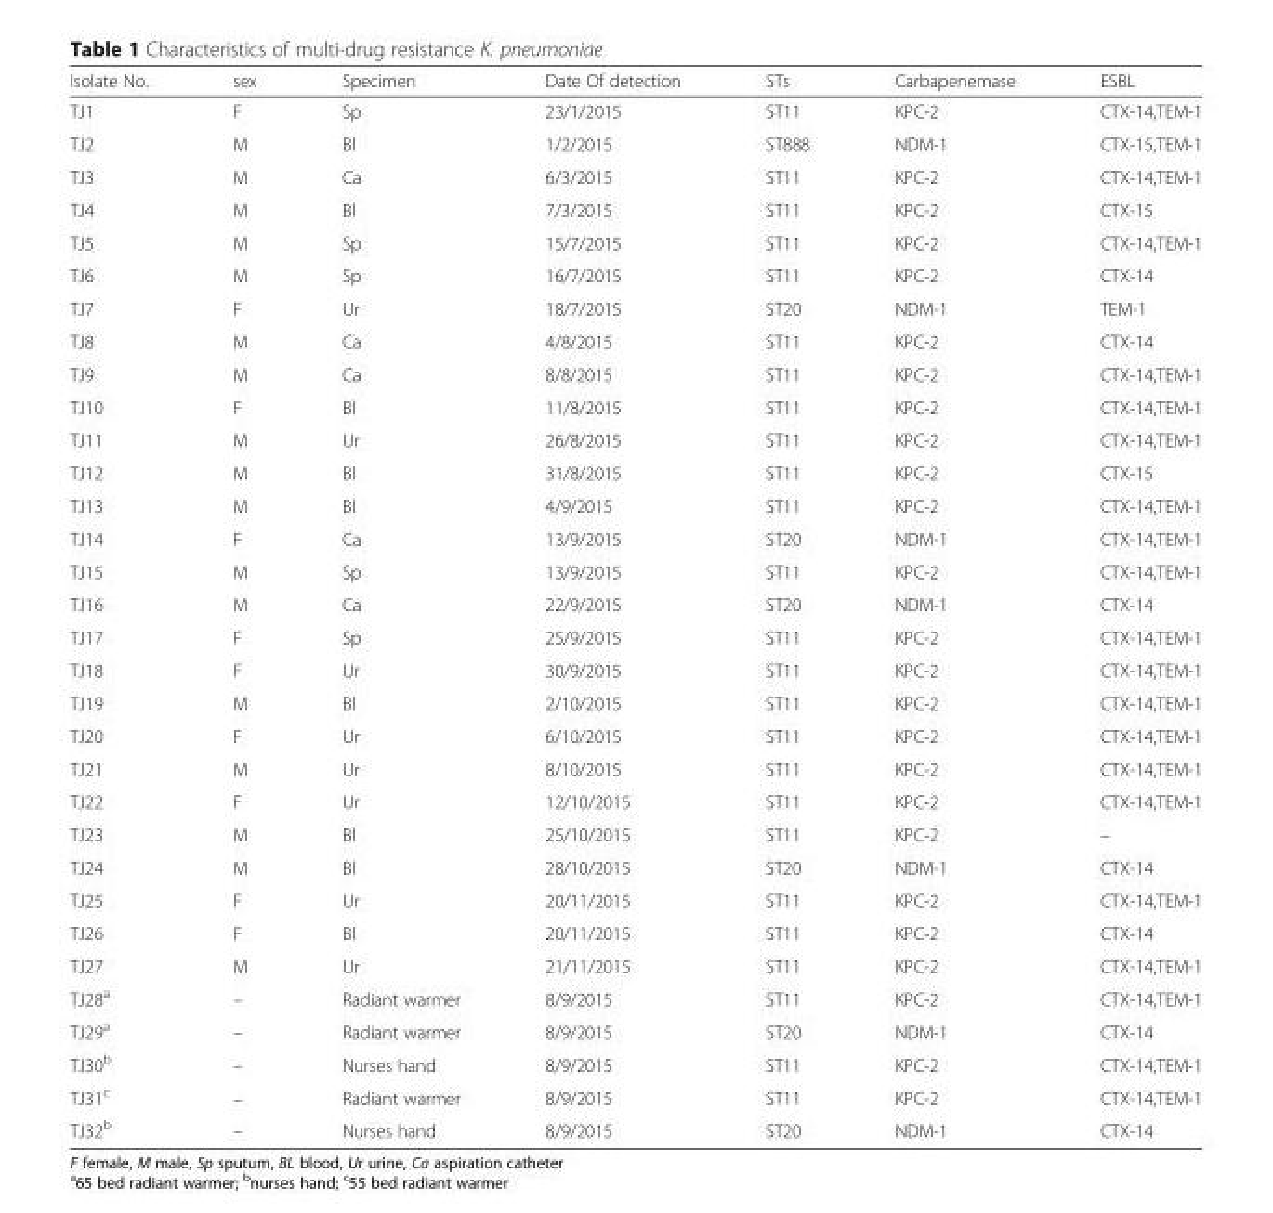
<table><thead><tr><td>Isolate No.</td><td>sex</td><td>Specimen</td><td>Date Of detection</td><td>STs</td><td>Carbapenemase</td><td>ESBL</td></tr></thead><tbody><tr><td>TJ1</td><td>F</td><td>Sp</td><td>23/1/2015</td><td>ST11</td><td>KPC-2</td><td>CTX-14,TEM-1</td></tr><tr><td>TJ2</td><td>M</td><td>Bl</td><td>1/2/2015</td><td>ST888</td><td>NDM-1</td><td>CTX-15,TEM-1</td></tr><tr><td>TJ3</td><td>M</td><td>Ca</td><td>6/3/2015</td><td>ST11</td><td>KPC-2</td><td>CTX-14,TEM-1</td></tr><tr><td>TJ4</td><td>M</td><td>Bl</td><td>7/3/2015</td><td>ST11</td><td>KPC-2</td><td>CTX-15</td></tr><tr><td>TJ5</td><td>M</td><td>Sp</td><td>15/7/2015</td><td>ST11</td><td>KPC-2</td><td>CTX-14,TEM-1</td></tr><tr><td>TJ6</td><td>M</td><td>Sp</td><td>16/7/2015</td><td>ST11</td><td>KPC-2</td><td>CTX-14</td></tr><tr><td>TJ7</td><td>F</td><td>Ur</td><td>18/7/2015</td><td>ST20</td><td>NDM-1</td><td>TEM-1</td></tr><tr><td>TJ8</td><td>M</td><td>Ca</td><td>4/8/2015</td><td>ST11</td><td>KPC-2</td><td>CTX-14</td></tr><tr><td>TJ9</td><td>M</td><td>Ca</td><td>8/8/2015</td><td>ST11</td><td>KPC-2</td><td>CTX-14,TEM-1</td></tr><tr><td>TJ10</td><td>F</td><td>Bl</td><td>11/8/2015</td><td>ST11</td><td>KPC-2</td><td>CTX-14,TEM-1</td></tr><tr><td>TJ11</td><td>M</td><td>Ur</td><td>26/8/2015</td><td>ST11</td><td>KPC-2</td><td>CTX-14,TEM-1</td></tr><tr><td>TJ12</td><td>M</td><td>Bl</td><td>31/8/2015</td><td>ST11</td><td>KPC-2</td><td>CTX-15</td></tr><tr><td>TJ13</td><td>M</td><td>Bl</td><td>4/9/2015</td><td>ST11</td><td>KPC-2</td><td>CTX-14,TEM-1</td></tr><tr><td>TJ14</td><td>F</td><td>Ca</td><td>13/9/2015</td><td>ST20</td><td>NDM-1</td><td>CTX-14,TEM-1</td></tr><tr><td>TJ15</td><td>M</td><td>Sp</td><td>13/9/2015</td><td>ST11</td><td>KPC-2</td><td>CTX-14,TEM-1</td></tr><tr><td>TJ16</td><td>M</td><td>Ca</td><td>22/9/2015</td><td>ST20</td><td>NDM-1</td><td>CTX-14</td></tr><tr><td>TJ17</td><td>F</td><td>Sp</td><td>25/9/2015</td><td>ST11</td><td>KPC-2</td><td>CTX-14,TEM-1</td></tr><tr><td>TJ18</td><td>F</td><td>Ur</td><td>30/9/2015</td><td>ST11</td><td>KPC-2</td><td>CTX-14,TEM-1</td></tr><tr><td>TJ19</td><td>M</td><td>Bl</td><td>2/10/2015</td><td>ST11</td><td>KPC-2</td><td>CTX-14,TEM-1</td></tr><tr><td>TJ20</td><td>F</td><td>Ur</td><td>6/10/2015</td><td>ST11</td><td>KPC-2</td><td>CTX-14,TEM-1</td></tr><tr><td>TJ21</td><td>M</td><td>Ur</td><td>8/10/2015</td><td>ST11</td><td>KPC-2</td><td>CTX-14,TEM-1</td></tr><tr><td>TJ22</td><td>F</td><td>Ur</td><td>12/10/2015</td><td>ST11</td><td>KPC-2</td><td>CTX-14,TEM-1</td></tr><tr><td>TJ23</td><td>M</td><td>Bl</td><td>25/10/2015</td><td>ST11</td><td>KPC-2</td><td>–</td></tr><tr><td>TJ24</td><td>M</td><td>Bl</td><td>28/10/2015</td><td>ST20</td><td>NDM-1</td><td>CTX-14</td></tr><tr><td>TJ25</td><td>F</td><td>Ur</td><td>20/11/2015</td><td>ST11</td><td>KPC-2</td><td>CTX-14,TEM-1</td></tr><tr><td>TJ26</td><td>F</td><td>Bl</td><td>20/11/2015</td><td>ST11</td><td>KPC-2</td><td>CTX-14</td></tr><tr><td>TJ27</td><td>M</td><td>Ur</td><td>21/11/2015</td><td>ST11</td><td>KPC-2</td><td>CTX-14,TEM-1</td></tr><tr><td>TJ28<sup>a</sup></td><td>–</td><td>Radiant warmer</td><td>8/9/2015</td><td>ST11</td><td>KPC-2</td><td>CTX-14,TEM-1</td></tr><tr><td>TJ29<sup>a</sup></td><td>–</td><td>Radiant warmer</td><td>8/9/2015</td><td>ST20</td><td>NDM-1</td><td>CTX-14</td></tr><tr><td>TJ30<sup>b</sup></td><td>–</td><td>Nurses hand</td><td>8/9/2015</td><td>ST11</td><td>KPC-2</td><td>CTX-14,TEM-1</td></tr><tr><td>TJ31<sup>c</sup></td><td>–</td><td>Radiant warmer</td><td>8/9/2015</td><td>ST11</td><td>KPC-2</td><td>CTX-14,TEM-1</td></tr><tr><td>TJ32<sup>b</sup></td><td>–</td><td>Nurses hand</td><td>8/9/2015</td><td>ST20</td><td>NDM-1</td><td>CTX-14</td></tr></tbody></table>